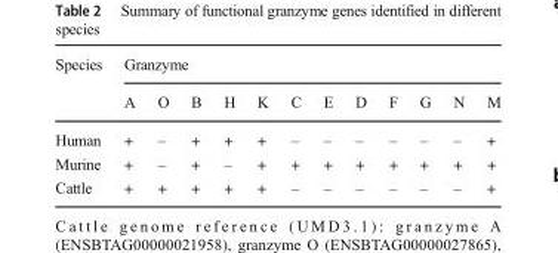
<table><thead><tr><td rowspan="2">Species</td><td colspan="12">Granzyme</td></tr><tr><td>A</td><td>O</td><td>B</td><td>H</td><td>K</td><td>C</td><td>E</td><td>D</td><td>F</td><td>G</td><td>N</td><td>M</td></tr></thead><tbody><tr><td>Human</td><td>+</td><td>–</td><td>+</td><td>+</td><td>+</td><td>–</td><td>–</td><td>–</td><td>–</td><td>–</td><td>–</td><td>+</td></tr><tr><td>Murine</td><td>+</td><td>–</td><td>+</td><td>–</td><td>+</td><td>+</td><td>+</td><td>+</td><td>+</td><td>+</td><td>+</td><td>+</td></tr><tr><td>Cattle</td><td>+</td><td>+</td><td>+</td><td>+</td><td>+</td><td>–</td><td>–</td><td>–</td><td>–</td><td>–</td><td>–</td><td>+</td></tr></tbody></table>